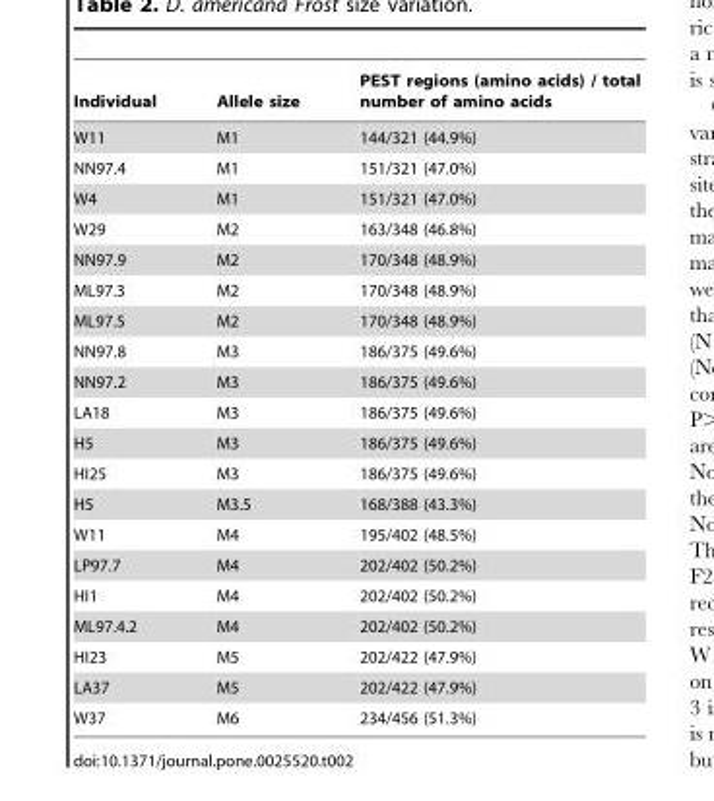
<table><thead><tr><td>Individual</td><td>Allele size</td><td>PEST regions (amino acids) / total number of amino acids</td></tr></thead><tbody><tr><td>W11</td><td>M1</td><td>144/321 (44.9%)</td></tr><tr><td>NN97.4</td><td>M1</td><td>151/321 (47.0%)</td></tr><tr><td>W4</td><td>M1</td><td>151/321 (47.0%)</td></tr><tr><td>W29</td><td>M2</td><td>163/348 (46.8%)</td></tr><tr><td>NN97.9</td><td>M2</td><td>170/348 (48.9%)</td></tr><tr><td>ML97.3</td><td>M2</td><td>170/348 (48.9%)</td></tr><tr><td>ML97.5</td><td>M2</td><td>170/348 (48.9%)</td></tr><tr><td>NN97.8</td><td>M3</td><td>186/375 (49.6%)</td></tr><tr><td>NN97.2</td><td>M3</td><td>186/375 (49.6%)</td></tr><tr><td>LA18</td><td>M3</td><td>186/375 (49.6%)</td></tr><tr><td>H5</td><td>M3</td><td>186/375 (49.6%)</td></tr><tr><td>HI25</td><td>M3</td><td>186/375 (49.6%)</td></tr><tr><td>H5</td><td>M3.5</td><td>168/388 (43.3%)</td></tr><tr><td>W11</td><td>M4</td><td>195/402 (48.5%)</td></tr><tr><td>LP97.7</td><td>M4</td><td>202/402 (50.2%)</td></tr><tr><td>HI1</td><td>M4</td><td>202/402 (50.2%)</td></tr><tr><td>ML97.4.2</td><td>M4</td><td>202/402 (50.2%)</td></tr><tr><td>HI23</td><td>M5</td><td>202/422 (47.9%)</td></tr><tr><td>LA37</td><td>M5</td><td>202/422 (47.9%)</td></tr><tr><td>W37</td><td>M6</td><td>234/456 (51.3%)</td></tr></tbody></table>